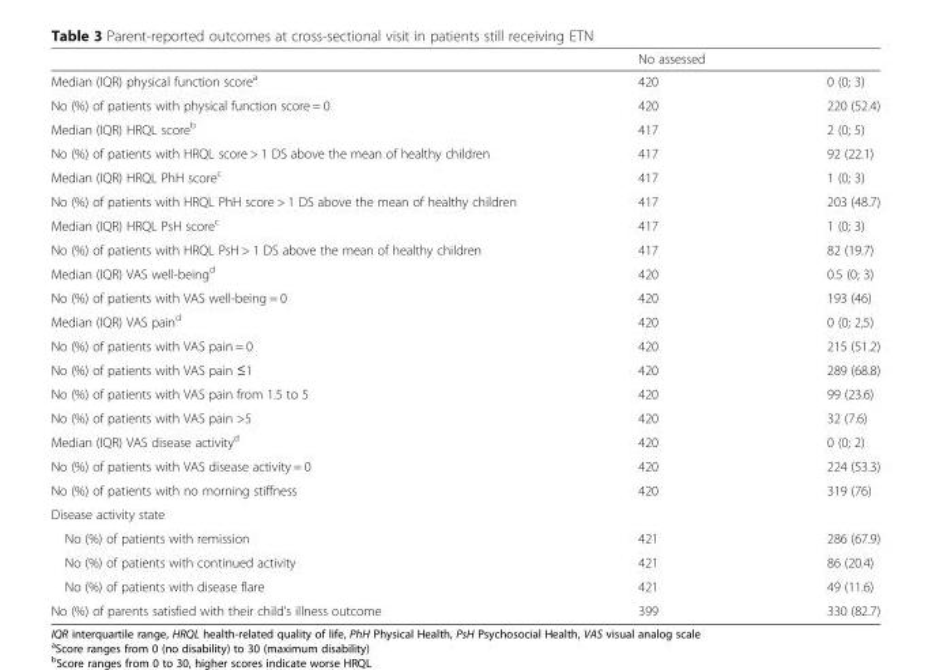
<table><thead><tr><td></td><td>No assessed</td><td></td></tr></thead><tbody><tr><td>Median (IQR) physical function score<sup>a</sup></td><td>420</td><td>0 (0; 3)</td></tr><tr><td>No (%) of patients with physical function score = 0</td><td>420</td><td>220 (52.4)</td></tr><tr><td>Median (IQR) HRQL score<sup>b</sup></td><td>417</td><td>2 (0; 5)</td></tr><tr><td>No (%) of patients with HRQL score &gt; 1 DS above the mean of healthy children</td><td>417</td><td>92 (22.1)</td></tr><tr><td>Median (IQR) HRQL PhH score<sup>c</sup></td><td>417</td><td>1 (0; 3)</td></tr><tr><td>No (%) of patients with HRQL PhH score &gt; 1 DS above the mean of healthy children</td><td>417</td><td>203 (48.7)</td></tr><tr><td>Median (IQR) HRQL PsH score<sup>c</sup></td><td>417</td><td>1 (0; 3)</td></tr><tr><td>No (%) of patients with HRQL PsH &gt; 1 DS above the mean of healthy children</td><td>417</td><td>82 (19.7)</td></tr><tr><td>Median (IQR) VAS well-being<sup>d</sup></td><td>420</td><td>0.5 (0; 3)</td></tr><tr><td>No (%) of patients with VAS well-being = 0</td><td>420</td><td>193 (46)</td></tr><tr><td>Median (IQR) VAS pain<sup>d</sup></td><td>420</td><td>0 (0; 2,5)</td></tr><tr><td>No (%) of patients with VAS pain = 0</td><td>420</td><td>215 (51.2)</td></tr><tr><td>No (%) of patients with VAS pain ≤1</td><td>420</td><td>289 (68.8)</td></tr><tr><td>No (%) of patients with VAS pain from 1.5 to 5</td><td>420</td><td>99 (23.6)</td></tr><tr><td>No (%) of patients with VAS pain &gt;5</td><td>420</td><td>32 (7.6)</td></tr><tr><td>Median (IQR) VAS disease activity<sup>d</sup></td><td>420</td><td>0 (0; 2)</td></tr><tr><td>No (%) of patients with VAS disease activity = 0</td><td>420</td><td>224 (53.3)</td></tr><tr><td>No (%) of patients with no morning stiffness</td><td>420</td><td>319 (76)</td></tr><tr><td colspan="3">Disease activity state</td></tr><tr><td>No (%) of patients with remission</td><td>421</td><td>286 (67.9)</td></tr><tr><td>No (%) of patients with continued activity</td><td>421</td><td>86 (20.4)</td></tr><tr><td>No (%) of patients with disease flare</td><td>421</td><td>49 (11.6)</td></tr><tr><td>No (%) of parents satisfied with their child’s illness outcome</td><td>399</td><td>330 (82.7)</td></tr></tbody></table>